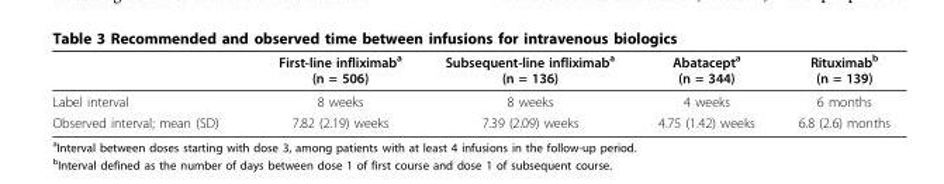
<table><thead><tr><td></td><td>First-line infliximab<sup>a</sup> (n = 506)</td><td>Subsequent-line infliximab<sup>a</sup> (n = 136)</td><td>Abatacept<sup>a</sup> (n = 344)</td><td>Rituximab<sup>b</sup> (n = 139)</td></tr></thead><tbody><tr><td>Label interval</td><td>8 weeks</td><td>8 weeks</td><td>4 weeks</td><td>6 months</td></tr><tr><td>Observed interval; mean (SD)</td><td>7.82 (2.19) weeks</td><td>7.39 (2.09) weeks</td><td>4.75 (1.42) weeks</td><td>6.8 (2.6) months</td></tr></tbody></table>